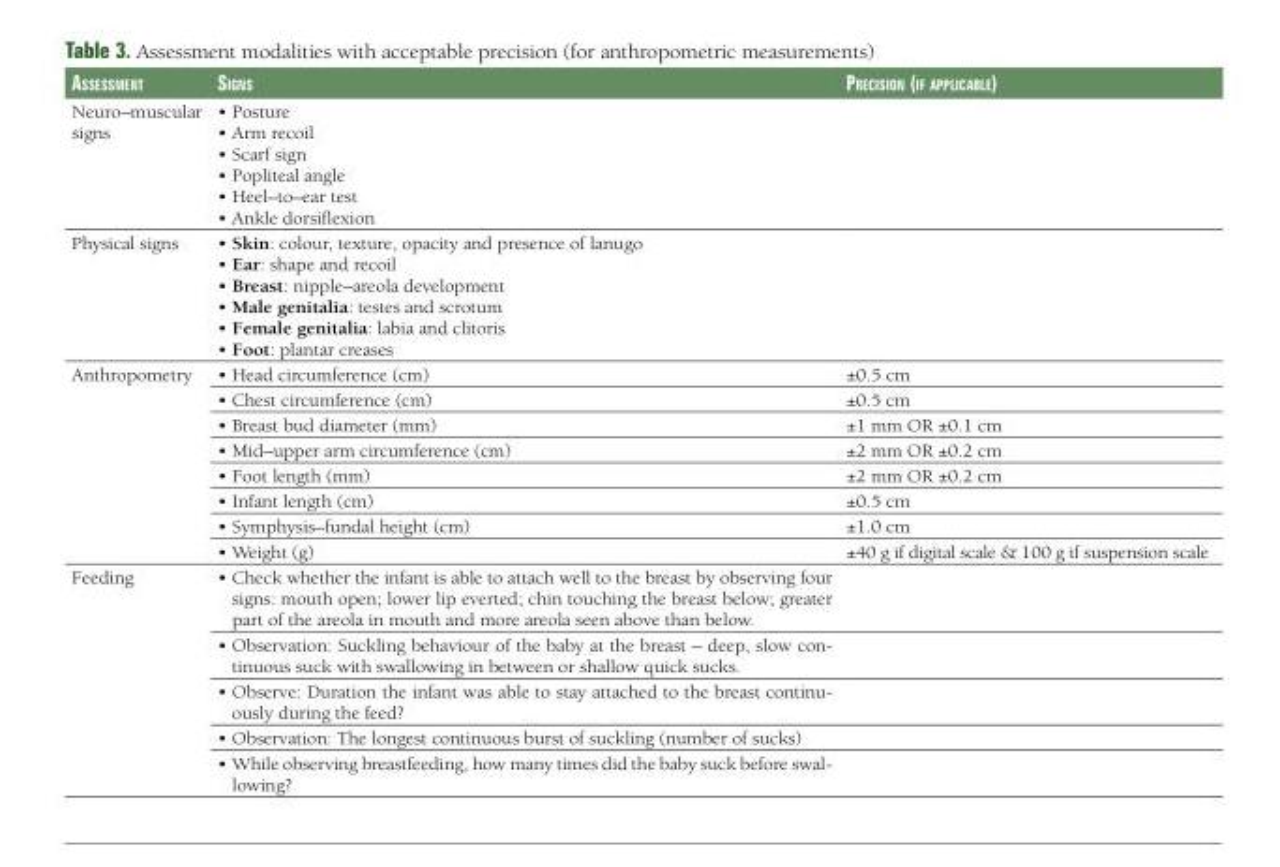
<table><thead><tr><td>assessment</td><td>siGns</td><td>precision (if applicable)</td></tr></thead><tbody><tr><td>Neuro–muscular signs</td><td>• Posture • Arm recoil • Scarf sign • Popliteal angle • Heel–to–ear test • Ankle dorsiflexion</td><td></td></tr><tr><td>Physical signs</td><td>• Skin: colour, texture, opacity and presence of lanugo • Ear: shape and recoil • Breast: nipple–areola development • Male genitalia: testes and scrotum • Female genitalia: labia and clitoris • Foot: plantar creases</td><td></td></tr><tr><td rowspan="8">Anthropometry</td><td>• Head circumference (cm)</td><td>±0.5 cm</td></tr><tr><td>• Chest circumference (cm)</td><td>±0.5 cm</td></tr><tr><td>• Breast bud diameter (mm)</td><td>±1 mm OR ±0.1 cm</td></tr><tr><td>• Mid–upper arm circumference (cm)</td><td>±2 mm OR ±0.2 cm</td></tr><tr><td>• Foot length (mm)</td><td>±2 mm OR ±0.2 cm</td></tr><tr><td>• Infant length (cm)</td><td>±0.5 cm</td></tr><tr><td>• Symphysis–fundal height (cm)</td><td>±1.0 cm</td></tr><tr><td>• Weight (g)</td><td>±40 g if digital scale &amp; 100 g if suspension scale</td></tr><tr><td rowspan="5">Feeding</td><td>• Check whether the infant is able to attach well to the breast by observing four signs: mouth open; lower lip everted; chin touching the breast below; greater part of the areola in mouth and more areola seen above than below.</td><td></td></tr><tr><td>• Observation: Suckling behaviour of the baby at the breast – deep, slow con- tinuous suck with swallowing in between or shallow quick sucks.</td><td></td></tr><tr><td>• Observe: Duration the infant was able to stay attached to the breast continu- ously during the feed?</td><td></td></tr><tr><td>• Observation: The longest continuous burst of suckling (number of sucks)</td><td></td></tr><tr><td>• While observing breastfeeding, how many times did the baby suck before swal- lowing?</td><td></td></tr></tbody></table>